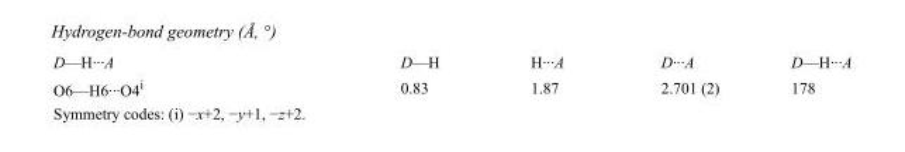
<table><tbody><tr><td>D—H···A</td><td>D—H</td><td>H···A</td><td>D···A</td><td>D—H···A</td></tr><tr><td>O6—H6···O4<sup>i</sup></td><td>0.83</td><td>1.87</td><td>2.701 (2)</td><td>178</td></tr></tbody></table>